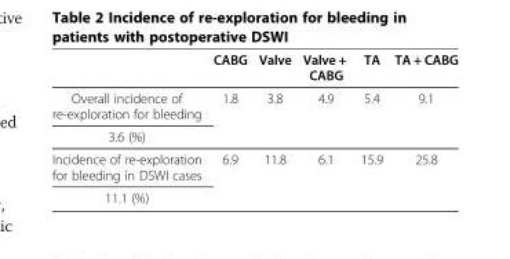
<table><thead><tr><td></td><td>CABG</td><td>Valve</td><td>Valve + CABG</td><td>TA</td><td>TA + CABG</td></tr></thead><tbody><tr><td>Overall incidence of re-exploration for bleeding</td><td rowspan="2">1.8</td><td rowspan="2">3.8</td><td rowspan="2">4.9</td><td rowspan="2">5.4</td><td rowspan="2">9.1</td></tr><tr><td>3.6 (%)</td></tr><tr><td>Incidence of re-exploration for bleeding in DSWI cases</td><td rowspan="2">6.9</td><td rowspan="2">11.8</td><td rowspan="2">6.1</td><td rowspan="2">15.9</td><td rowspan="2">25.8</td></tr><tr><td>11.1 (%)</td></tr></tbody></table>